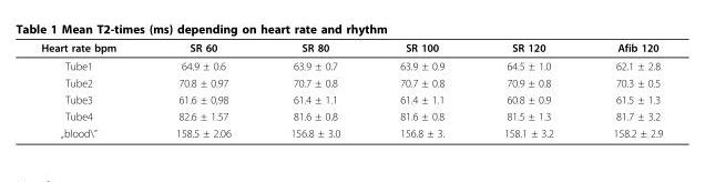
<table><thead><tr><td>Heart rate bpm</td><td>SR 60</td><td>SR 80</td><td>SR 100</td><td>SR 120</td><td>Afib 120</td></tr></thead><tbody><tr><td>Tube1</td><td>64.9 ± 0.6</td><td>63.9 ± 0.7</td><td>63.9 ± 0.9</td><td>64.5 ± 1.0</td><td>62.1 ± 2.8</td></tr><tr><td>Tube2</td><td>70.8 ± 0.97</td><td>70.7 ± 0.8</td><td>70.7 ± 0.8</td><td>70.9 ± 0.8</td><td>70.3 ± 0.5</td></tr><tr><td>Tube3</td><td>61.6 ± 0,98</td><td>61.4 ± 1.1</td><td>61.4 ± 1.1</td><td>60.8 ± 0.9</td><td>61.5 ± 1.3</td></tr><tr><td>Tube4</td><td>82.6 ± 1.57</td><td>81.6 ± 0.8</td><td>81.6 ± 0.8</td><td>81.5 ± 1.3</td><td>81.7 ± 3.2</td></tr><tr><td>„blood\\u201d</td><td>158.5 ± 2.06</td><td>156.8 ± 3.0</td><td>156.8 ± 3.</td><td>158.1 ± 3.2</td><td>158.2 ± 2.9</td></tr></tbody></table>